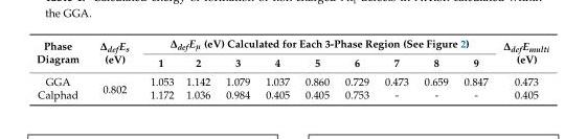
<table><thead><tr><td rowspan="2">Phase Diagram</td><td rowspan="2">∆defEs (eV)</td><td colspan="9">∆defEµ (eV) Calculated for Each 3-Phase Region (See Figure 2)</td><td rowspan="2">∆defEmulti (eV)</td></tr><tr><td>1</td><td>2</td><td>3</td><td>4</td><td>5</td><td>6</td><td>7</td><td>8</td><td>9</td></tr></thead><tbody><tr><td>GGA</td><td rowspan="2">0.802</td><td>1.053</td><td>1.142</td><td>1.079</td><td>1.037</td><td>0.860</td><td>0.729</td><td>0.473</td><td>0.659</td><td>0.847</td><td>0.473</td></tr><tr><td>Calphad</td><td>1.172</td><td>1.036</td><td>0.984</td><td>0.405</td><td>0.405</td><td>0.753</td><td>-</td><td>-</td><td>-</td><td>0.405</td></tr></tbody></table>